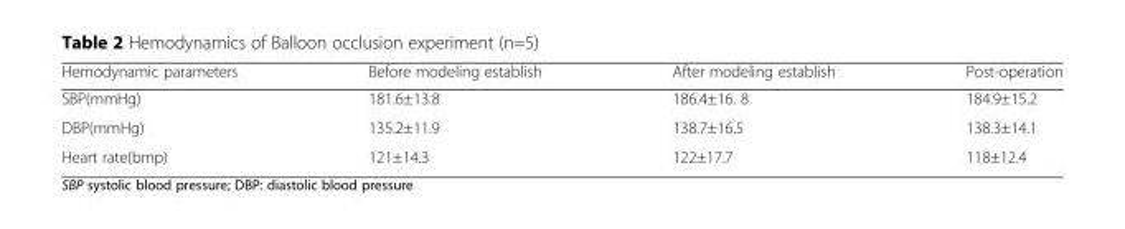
<table><thead><tr><td>Hemodynamic parameters</td><td>Before modeling establish</td><td>After modeling establish</td><td>Post-operation</td></tr></thead><tbody><tr><td>SBP(mmHg)</td><td>181.6±13.8</td><td>186.4±16. 8</td><td>184.9±15.2</td></tr><tr><td>DBP(mmHg)</td><td>135.2±11.9</td><td>138.7±16.5</td><td>138.3±14.1</td></tr><tr><td>Heart rate(bmp)</td><td>121±14.3</td><td>122±17.7</td><td>118±12.4</td></tr></tbody></table>